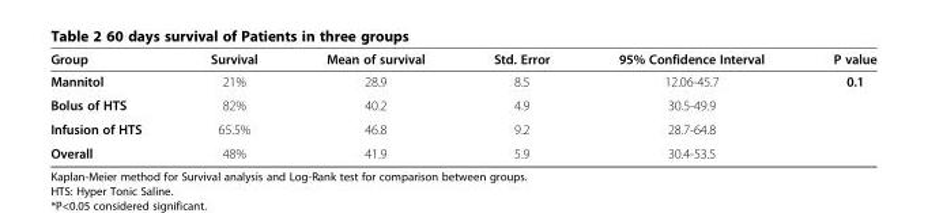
<table><thead><tr><td>Group</td><td>Survival</td><td>Mean of survival</td><td>Std. Error</td><td>95% Confidence Interval</td><td>P value</td></tr></thead><tbody><tr><td>Mannitol</td><td>21%</td><td>28.9</td><td>8.5</td><td>12.06-45.7</td><td>0.1</td></tr><tr><td>Bolus of HTS</td><td>82%</td><td>40.2</td><td>4.9</td><td>30.5-49.9</td><td></td></tr><tr><td>Infusion of HTS</td><td>65.5%</td><td>46.8</td><td>9.2</td><td>28.7-64.8</td><td></td></tr><tr><td>Overall</td><td>48%</td><td>41.9</td><td>5.9</td><td>30.4-53.5</td><td></td></tr></tbody></table>